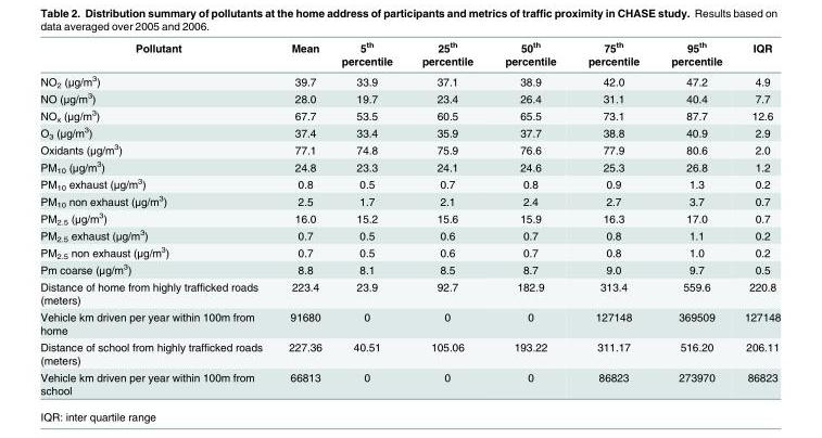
<table><thead><tr><td>Pollutant</td><td>Mean</td><td>5<sup>th</sup> percentile</td><td>25<sup>th</sup> percentile</td><td>50<sup>th</sup> percentile</td><td>75<sup>th</sup> percentile</td><td>95<sup>th</sup> percentile</td><td>IQR</td></tr></thead><tbody><tr><td>NO<sub>2</sub> (μg/m<sup>3</sup>)</td><td>39.7</td><td>33.9</td><td>37.1</td><td>38.9</td><td>42.0</td><td>47.2</td><td>4.9</td></tr><tr><td>NO (μg/m<sup>3</sup>)</td><td>28.0</td><td>19.7</td><td>23.4</td><td>26.4</td><td>31.1</td><td>40.4</td><td>7.7</td></tr><tr><td>NO<sub>x</sub> (μg/m<sup>3</sup>)</td><td>67.7</td><td>53.5</td><td>60.5</td><td>65.5</td><td>73.1</td><td>87.7</td><td>12.6</td></tr><tr><td>O<sub>3</sub> (μg/m<sup>3</sup>)</td><td>37.4</td><td>33.4</td><td>35.9</td><td>37.7</td><td>38.8</td><td>40.9</td><td>2.9</td></tr><tr><td>Oxidants (μg/m<sup>3</sup>)</td><td>77.1</td><td>74.8</td><td>75.9</td><td>76.6</td><td>77.9</td><td>80.6</td><td>2.0</td></tr><tr><td>PM<sub>10</sub> (μg/m<sup>3</sup>)</td><td>24.8</td><td>23.3</td><td>24.1</td><td>24.6</td><td>25.3</td><td>26.8</td><td>1.2</td></tr><tr><td>PM<sub>10</sub> exhaust (μg/m<sup>3</sup>)</td><td>0.8</td><td>0.5</td><td>0.7</td><td>0.8</td><td>0.9</td><td>1.3</td><td>0.2</td></tr><tr><td>PM<sub>10</sub> non exhaust (μg/m<sup>3</sup>)</td><td>2.5</td><td>1.7</td><td>2.1</td><td>2.4</td><td>2.7</td><td>3.7</td><td>0.7</td></tr><tr><td>PM<sub>2.5</sub> (μg/m<sup>3</sup>)</td><td>16.0</td><td>15.2</td><td>15.6</td><td>15.9</td><td>16.3</td><td>17.0</td><td>0.7</td></tr><tr><td>PM<sub>2.5</sub> exhaust (μg/m<sup>3</sup>)</td><td>0.7</td><td>0.5</td><td>0.6</td><td>0.7</td><td>0.8</td><td>1.1</td><td>0.2</td></tr><tr><td>PM<sub>2.5</sub> non exhaust (μg/m<sup>3</sup>)</td><td>0.7</td><td>0.5</td><td>0.6</td><td>0.7</td><td>0.8</td><td>1.0</td><td>0.2</td></tr><tr><td>Pm coarse (μg/m<sup>3</sup>)</td><td>8.8</td><td>8.1</td><td>8.5</td><td>8.7</td><td>9.0</td><td>9.7</td><td>0.5</td></tr><tr><td>Distance of home from highly trafficked roads (meters)</td><td>223.4</td><td>23.9</td><td>92.7</td><td>182.9</td><td>313.4</td><td>559.6</td><td>220.8</td></tr><tr><td>Vehicle km driven per year within 100m from home</td><td>91680</td><td>0</td><td>0</td><td>0</td><td>127148</td><td>369509</td><td>127148</td></tr><tr><td>Distance of school from highly trafficked roads (meters)</td><td>227.36</td><td>40.51</td><td>105.06</td><td>193.22</td><td>311.17</td><td>516.20</td><td>206.11</td></tr><tr><td>Vehicle km driven per year within 100m from school</td><td>66813</td><td>0</td><td>0</td><td>0</td><td>86823</td><td>273970</td><td>86823</td></tr></tbody></table>